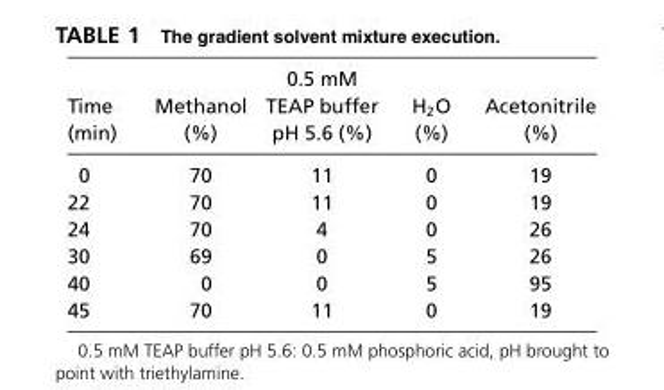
<table><thead><tr><td>Time (min)</td><td>Methanol (%)</td><td>0.5 mM TEAP buffer pH 5.6 (%)</td><td>H<sub>2</sub>O (%)</td><td>Acetonitrile (%)</td></tr></thead><tbody><tr><td>0</td><td>70</td><td>11</td><td>0</td><td>19</td></tr><tr><td>22</td><td>70</td><td>11</td><td>0</td><td>19</td></tr><tr><td>24</td><td>70</td><td>4</td><td>0</td><td>26</td></tr><tr><td>30</td><td>69</td><td>0</td><td>5</td><td>26</td></tr><tr><td>40</td><td>0</td><td>0</td><td>5</td><td>95</td></tr><tr><td>45</td><td>70</td><td>11</td><td>0</td><td>19</td></tr></tbody></table>